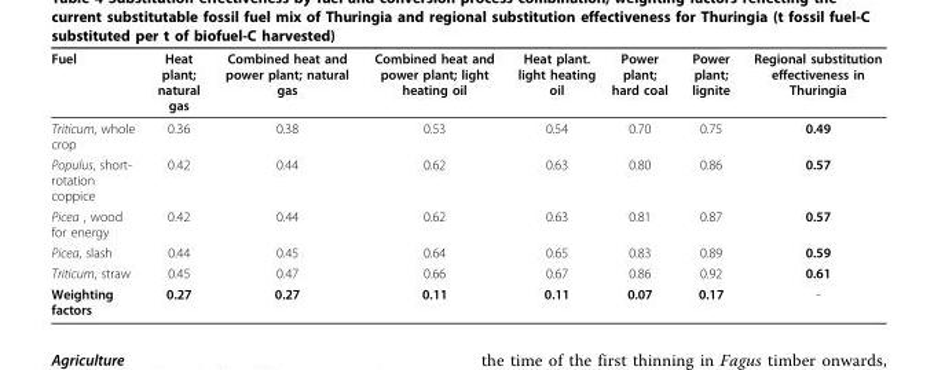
<table><thead><tr><td>Fuel</td><td>Heat plant; natural gas</td><td>Combined heat and power plant; natural gas</td><td>Combined heat and power plant; light heating oil</td><td>Heat plant. light heating oil</td><td>Power plant; hard coal</td><td>Power plant; lignite</td><td>Regional substitution effectiveness in Thuringia</td></tr></thead><tbody><tr><td>Triticum, whole crop</td><td>0.36</td><td>0.38</td><td>0.53</td><td>0.54</td><td>0.70</td><td>0.75</td><td>0.49</td></tr><tr><td>Populus, short- rotation coppice</td><td>0.42</td><td>0.44</td><td>0.62</td><td>0.63</td><td>0.80</td><td>0.86</td><td>0.57</td></tr><tr><td>Picea , wood for energy</td><td>0.42</td><td>0.44</td><td>0.62</td><td>0.63</td><td>0.81</td><td>0.87</td><td>0.57</td></tr><tr><td>Picea, slash</td><td>0.44</td><td>0.45</td><td>0.64</td><td>0.65</td><td>0.83</td><td>0.89</td><td>0.59</td></tr><tr><td>Triticum, straw</td><td>0.45</td><td>0.47</td><td>0.66</td><td>0.67</td><td>0.86</td><td>0.92</td><td>0.61</td></tr><tr><td>Weighting factors</td><td>0.27</td><td>0.27</td><td>0.11</td><td>0.11</td><td>0.07</td><td>0.17</td><td>-</td></tr></tbody></table>